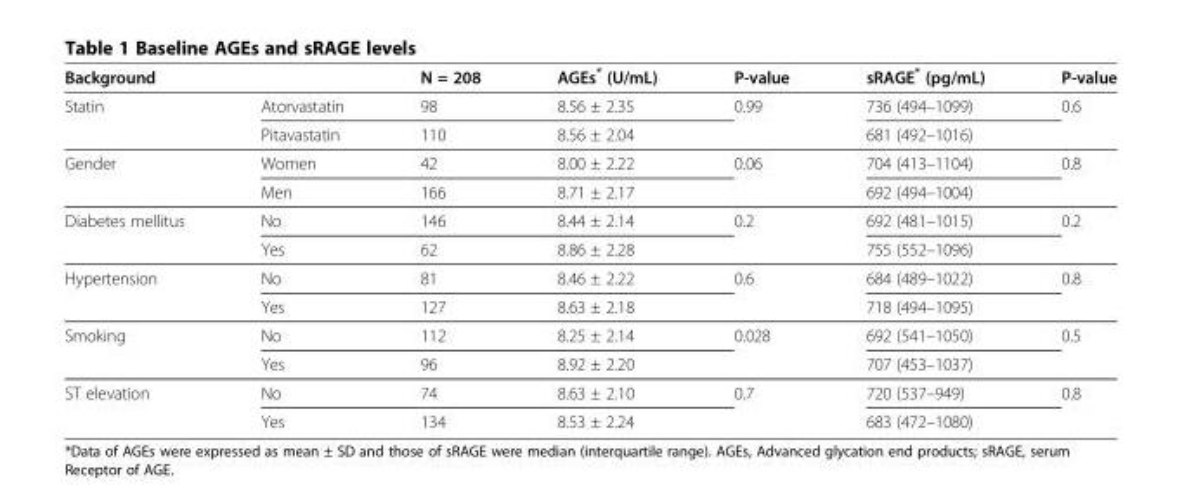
<table><thead><tr><td>Background</td><td></td><td>N = 208</td><td>AGEs* (U/mL)</td><td>P-value</td><td>sRAGE* (pg/mL)</td><td>P-value</td></tr></thead><tbody><tr><td rowspan="2">Statin</td><td>Atorvastatin</td><td>98</td><td>8.56 ± 2.35</td><td rowspan="2">0.99</td><td>736 (494–1099)</td><td rowspan="2">0.6</td></tr><tr><td>Pitavastatin</td><td>110</td><td>8.56 ± 2.04</td><td>681 (492–1016)</td></tr><tr><td rowspan="2">Gender</td><td>Women</td><td>42</td><td>8.00 ± 2.22</td><td rowspan="2">0.06</td><td>704 (413–1104)</td><td rowspan="2">0.8</td></tr><tr><td>Men</td><td>166</td><td>8.71 ± 2.17</td><td>692 (494–1004)</td></tr><tr><td rowspan="2">Diabetes mellitus</td><td>No</td><td>146</td><td>8.44 ± 2.14</td><td>0.2</td><td>692 (481–1015)</td><td>0.2</td></tr><tr><td>Yes</td><td>62</td><td>8.86 ± 2.28</td><td></td><td>755 (552–1096)</td><td></td></tr><tr><td rowspan="2">Hypertension</td><td>No</td><td>81</td><td>8.46 ± 2.22</td><td>0.6</td><td>684 (489–1022)</td><td>0.8</td></tr><tr><td>Yes</td><td>127</td><td>8.63 ± 2.18</td><td></td><td>718 (494–1095)</td><td></td></tr><tr><td rowspan="2">Smoking</td><td>No</td><td>112</td><td>8.25 ± 2.14</td><td rowspan="2">0.028</td><td>692 (541–1050)</td><td rowspan="2">0.5</td></tr><tr><td>Yes</td><td>96</td><td>8.92 ± 2.20</td><td>707 (453–1037)</td></tr><tr><td rowspan="2">ST elevation</td><td>No</td><td>74</td><td>8.63 ± 2.10</td><td rowspan="2">0.7</td><td>720 (537–949)</td><td rowspan="2">0.8</td></tr><tr><td>Yes</td><td>134</td><td>8.53 ± 2.24</td><td>683 (472–1080)</td></tr></tbody></table>